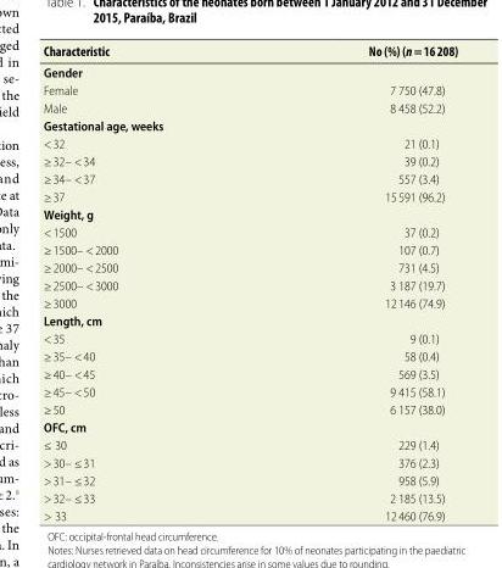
<table><thead><tr><td>Characteristic</td><td>No (%) (n = 16 208)</td></tr></thead><tbody><tr><td colspan="2">Gender</td></tr><tr><td>Female</td><td>7 750 (47.8)</td></tr><tr><td>Male</td><td>8 458 (52.2)</td></tr><tr><td colspan="2">Gestational age, weeks</td></tr><tr><td>&lt; 32</td><td>21 (0.1)</td></tr><tr><td>≥ 32– &lt; 34</td><td>39 (0.2)</td></tr><tr><td>≥ 34– &lt; 37</td><td>557 (3.4)</td></tr><tr><td>≥ 37</td><td>15 591 (96.2)</td></tr><tr><td colspan="2">Weight, g</td></tr><tr><td>&lt; 1500</td><td>37 (0.2)</td></tr><tr><td>≥ 1500– &lt; 2000</td><td>107 (0.7)</td></tr><tr><td>≥ 2000– &lt; 2500</td><td>731 (4.5)</td></tr><tr><td>≥ 2500– &lt; 3000</td><td>3 187 (19.7)</td></tr><tr><td>≥ 3000</td><td>12 146 (74.9)</td></tr><tr><td colspan="2">Length, cm</td></tr><tr><td>&lt; 35</td><td>9 (0.1)</td></tr><tr><td>≥ 35– &lt; 40</td><td>58 (0.4)</td></tr><tr><td>≥ 40– &lt; 45</td><td>569 (3.5)</td></tr><tr><td>≥ 45– &lt; 50</td><td>9 415 (58.1)</td></tr><tr><td>≥ 50</td><td>6 157 (38.0)</td></tr><tr><td colspan="2">OFC, cm</td></tr><tr><td>≤ 30</td><td>229 (1.4)</td></tr><tr><td>&gt; 30– ≤ 31</td><td>376 (2.3)</td></tr><tr><td>&gt; 31– ≤ 32</td><td>958 (5.9)</td></tr><tr><td>&gt; 32– ≤ 33</td><td>2 185 (13.5)</td></tr><tr><td>&gt; 33</td><td>12 460 (76.9)</td></tr></tbody></table>